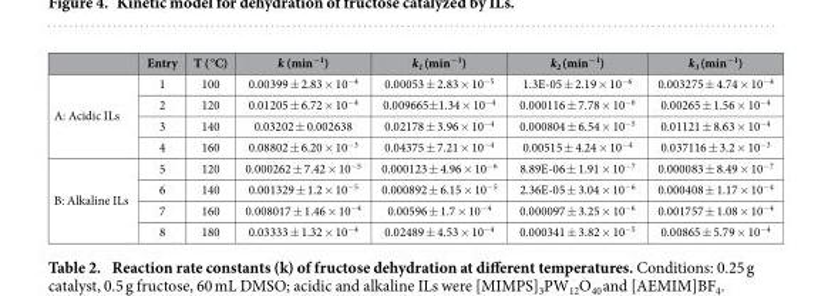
<table><thead><tr><td></td><td>Entry</td><td>T ( °C)</td><td>k (min<sup>−1</sup>)</td><td>k<sub>1</sub> (min<sup>−1</sup>)</td><td>k<sub>2</sub> (min<sup>−1</sup>)</td><td>k<sub>3</sub> (min<sup>−1</sup>)</td></tr></thead><tbody><tr><td rowspan="4">A: Acidic ILs</td><td>1</td><td>100</td><td>0.00399 ± 2.83 × 10<sup>−4</sup></td><td>0.00053 ± 2.83 × 10<sup>−5</sup></td><td>1.3E-05 ± 2.19 × 10<sup>−6</sup></td><td>0.003275 ± 4.74 × 10<sup>−4</sup></td></tr><tr><td>2</td><td>120</td><td>0.01205 ± 6.72 × 10<sup>−4</sup></td><td>0.009665± 1.34 × 10<sup>−4</sup></td><td>0.000116 ± 7.78 × 10<sup>−6</sup></td><td>0.00265 ± 1.56 × 10<sup>−4</sup></td></tr><tr><td>3</td><td>140</td><td>0.03202 ± 0.002638</td><td>0.02178 ± 3.96 × 10<sup>−4</sup></td><td>0.000804 ± 6.54 × 10<sup>−5</sup></td><td>0.01121 ± 8.63 × 10<sup>−4</sup></td></tr><tr><td>4</td><td>160</td><td>0.08802 ± 6.20 × 10<sup>−3</sup></td><td>0.04375 ± 7.21 × 10<sup>−4</sup></td><td>0.00515 ± 4.24 × 10<sup>−4</sup></td><td>0.037116 ± 3.2 × 10<sup>−3</sup></td></tr><tr><td rowspan="4">B: Alkaline ILs</td><td>5</td><td>120</td><td>0.000262 ± 7.42 × 10<sup>−5</sup></td><td>0.000123 ± 4.96 × 10<sup>−6</sup></td><td>8.89E-06 ± 1.91 × 10<sup>−7</sup></td><td>0.000083 ± 8.49 × 10<sup>−7</sup></td></tr><tr><td>6</td><td>140</td><td>0.001329 ± 1.2 × 10<sup>−5</sup></td><td>0.000892 ± 6.15 × 10<sup>−5</sup></td><td>2.36E-05 ± 3.04 × 10<sup>−6</sup></td><td>0.000408 ± 1.17 × 10<sup>−4</sup></td></tr><tr><td>7</td><td>160</td><td>0.008017 ± 1.46 × 10<sup>−4</sup></td><td>0.00596 ± 1.7 × 10<sup>−4</sup></td><td>0.000097 ± 3.25 × 10<sup>−6</sup></td><td>0.001757 ± 1.08 × 10<sup>−4</sup></td></tr><tr><td>8</td><td>180</td><td>0.03333 ± 1.32 × 10<sup>−4</sup></td><td>0.02489 ± 4.53 × 10<sup>−4</sup></td><td>0.000341 ± 3.82 × 10<sup>−5</sup></td><td>0.00865 ± 5.79 × 10<sup>−4</sup></td></tr></tbody></table>